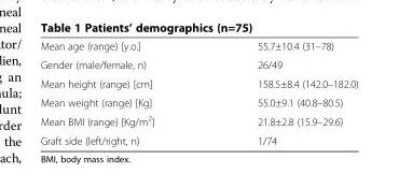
<table><tbody><tr><td>Mean age (range) [y.o.]</td><td>55.7±10.4 (31–78)</td></tr><tr><td>Gender (male/female, n)</td><td>26/49</td></tr><tr><td>Mean height (range) [cm]</td><td>158.5±8.4 (142.0–182.0)</td></tr><tr><td>Mean weight (range) [Kg]</td><td>55.0±9.1 (40.8–80.5)</td></tr><tr><td>Mean BMI (range) [Kg/m<sup>2</sup>]</td><td>21.8±2.8 (15.9–29.6)</td></tr><tr><td>Graft side (left/right, n)</td><td>1/74</td></tr></tbody></table>